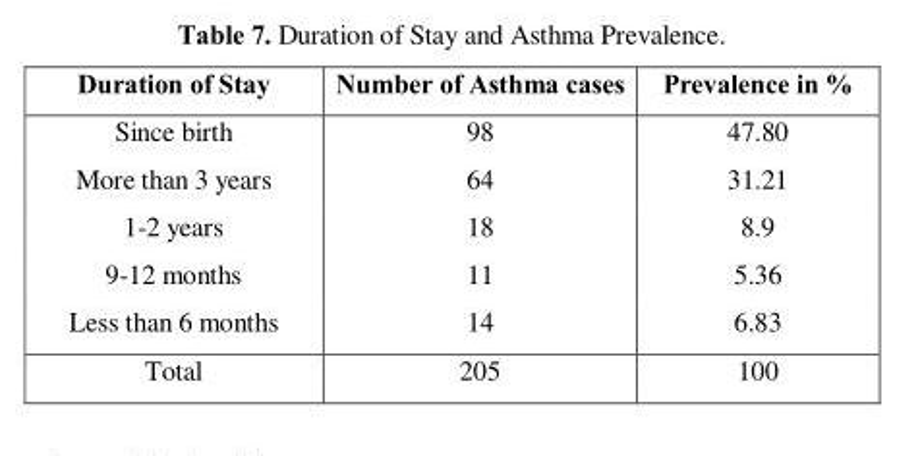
<table><thead><tr><td>Duration of Stay</td><td>Number of Asthma cases</td><td>Prevalence in %</td></tr></thead><tbody><tr><td>Since birth</td><td>98</td><td>47.80</td></tr><tr><td>More than 3 years</td><td>64</td><td>31.21</td></tr><tr><td>1-2 years</td><td>18</td><td>8.9</td></tr><tr><td>9-12 months</td><td>11</td><td>5.36</td></tr><tr><td>Less than 6 months</td><td>14</td><td>6.83</td></tr><tr><td>Total</td><td>205</td><td>100</td></tr></tbody></table>